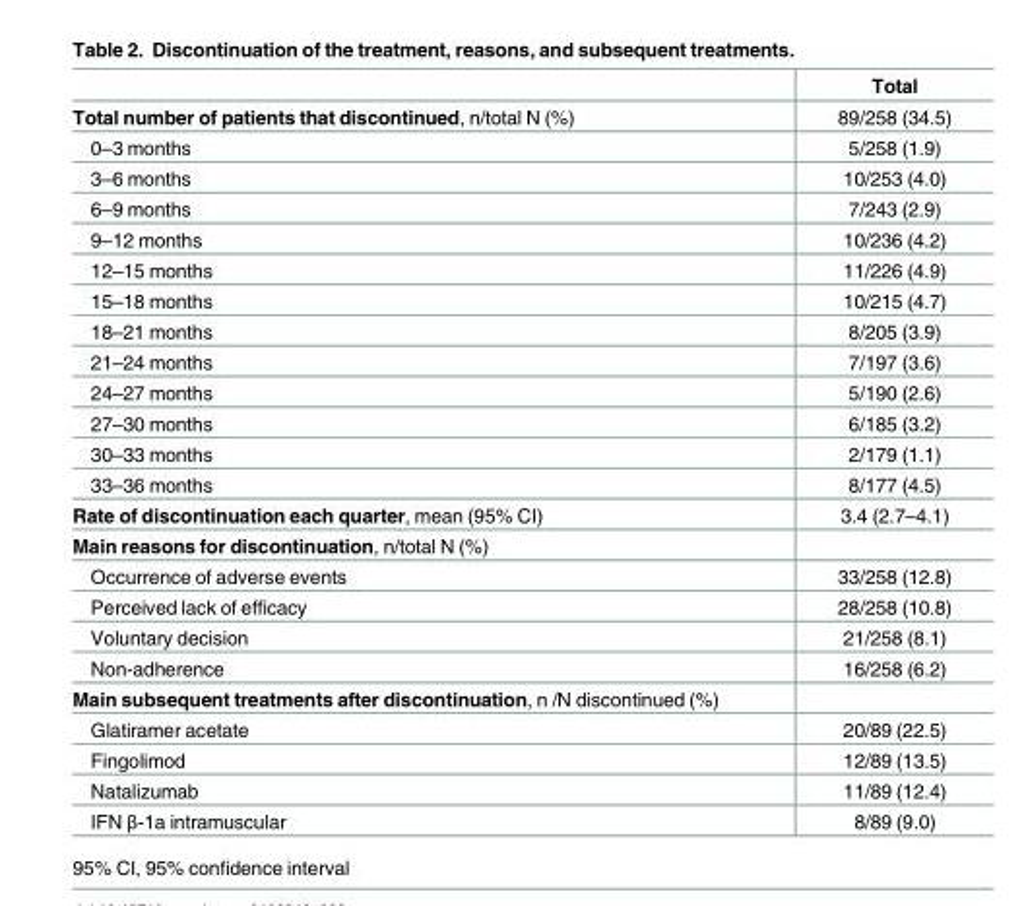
<table><thead><tr><td></td><td>Total</td></tr></thead><tbody><tr><td>Total number of patients that discontinued, n/total N (%)</td><td>89/258 (34.5)</td></tr><tr><td>0–3 months</td><td>5/258 (1.9)</td></tr><tr><td>3–6 months</td><td>10/253 (4.0)</td></tr><tr><td>6–9 months</td><td>7/243 (2.9)</td></tr><tr><td>9–12 months</td><td>10/236 (4.2)</td></tr><tr><td>12–15 months</td><td>11/226 (4.9)</td></tr><tr><td>15–18 months</td><td>10/215 (4.7)</td></tr><tr><td>18–21 months</td><td>8/205 (3.9)</td></tr><tr><td>21–24 months</td><td>7/197 (3.6)</td></tr><tr><td>24–27 months</td><td>5/190 (2.6)</td></tr><tr><td>27–30 months</td><td>6/185 (3.2)</td></tr><tr><td>30–33 months</td><td>2/179 (1.1)</td></tr><tr><td>33–36 months</td><td>8/177 (4.5)</td></tr><tr><td>Rate of discontinuation each quarter, mean (95% CI)</td><td>3.4 (2.7–4.1)</td></tr><tr><td colspan="2">Main reasons for discontinuation, n/total N (%)</td></tr><tr><td>Occurrence of adverse events</td><td>33/258 (12.8)</td></tr><tr><td>Perceived lack of efficacy</td><td>28/258 (10.8)</td></tr><tr><td>Voluntary decision</td><td>21/258 (8.1)</td></tr><tr><td>Non-adherence</td><td>16/258 (6.2)</td></tr><tr><td colspan="2">Main subsequent treatments after discontinuation, n /N discontinued (%)</td></tr><tr><td>Glatiramer acetate</td><td>20/89 (22.5)</td></tr><tr><td>Fingolimod</td><td>12/89 (13.5)</td></tr><tr><td>Natalizumab</td><td>11/89 (12.4)</td></tr><tr><td>IFN β-1a intramuscular</td><td>8/89 (9.0)</td></tr></tbody></table>